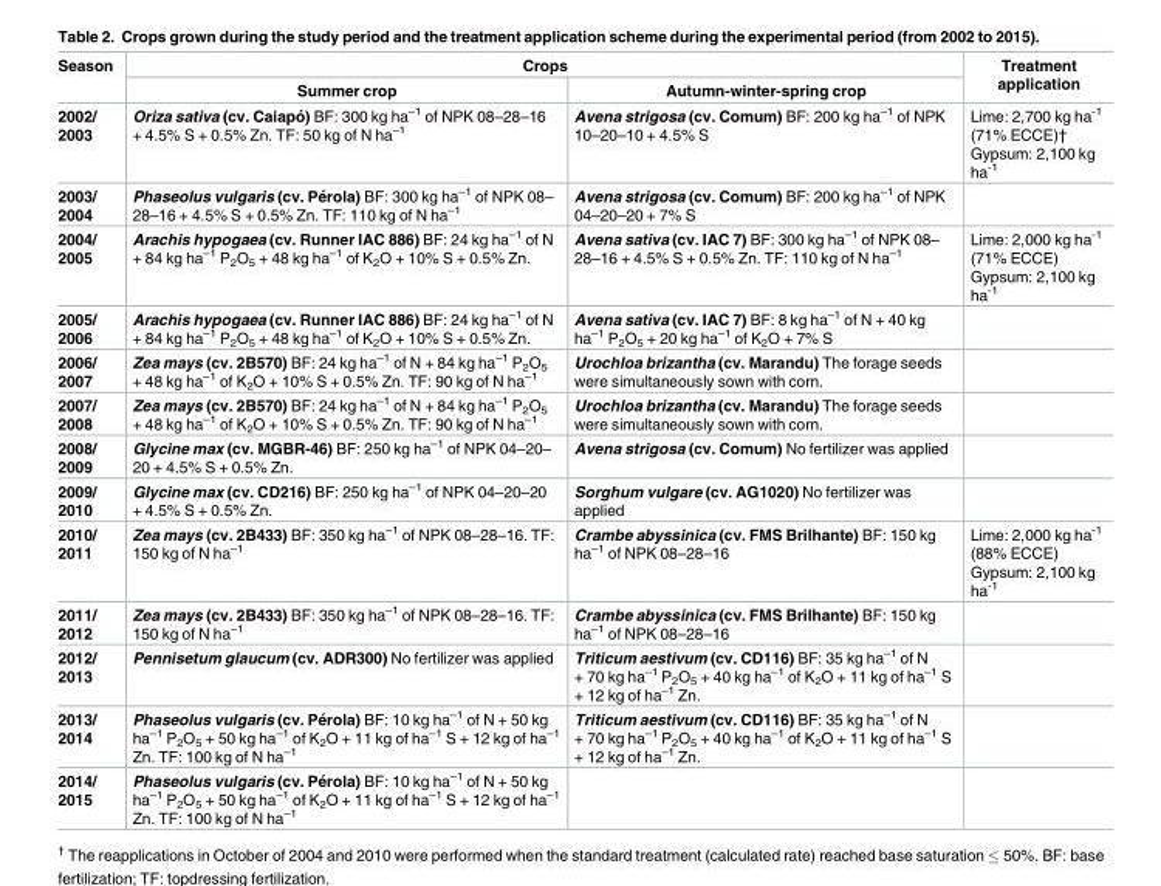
<table><thead><tr><td rowspan="2">Season</td><td colspan="2">Crops</td><td rowspan="2">Treatment application</td></tr><tr><td>Summer crop</td><td>Autumn-winter-spring crop</td></tr></thead><tbody><tr><td>2002/ 2003</td><td>Oriza sativa (cv. Caiapo´) BF: 300 kg ha–1 of NPK 08–28–16 + 4.5% S + 0.5% Zn. TF: 50 kg of N ha–1</td><td>Avena strigosa (cv. Comum) BF: 200 kg ha<sup>–1</sup> of NPK 10–20–10 + 4.5% S</td><td>Lime: 2,700 kg ha<sup>-1</sup> (71% ECCE)† Gypsum: 2,100 kg ha<sup>-1</sup></td></tr><tr><td>2003/ 2004</td><td>Phaseolus vulgaris (cv. Pe´rola) BF: 300 kg ha–1 of NPK 08– 28–16 + 4.5% S + 0.5% Zn. TF: 110 kg of N ha–1</td><td>Avena strigosa (cv. Comum) BF: 200 kg ha<sup>–1</sup> of NPK 04–20–20 + 7% S</td><td></td></tr><tr><td>2004/ 2005</td><td>Arachis hypogaea (cv. Runner IAC 886) BF: 24 kg ha<sup>–1</sup> of N + 84 kg ha<sup>–1</sup> P<sub>2</sub>O<sub>5</sub> + 48 kg ha<sup>–1</sup> of K<sub>2</sub>O + 10% S + 0.5% Zn.</td><td>Avena sativa (cv. IAC 7) BF: 300 kg ha<sup>–1</sup> of NPK 08– 28–16 + 4.5% S + 0.5% Zn. TF: 110 kg of N ha<sup>–1</sup></td><td>Lime: 2,000 kg ha<sup>-1</sup> (71% ECCE) Gypsum: 2,100 kg ha<sup>-1</sup></td></tr><tr><td>2005/ 2006</td><td>Arachis hypogaea (cv. Runner IAC 886) BF: 24 kg ha<sup>–1</sup> of N + 84 kg ha<sup>–1</sup> P<sub>2</sub>O<sub>5</sub> + 48 kg ha<sup>–1</sup> of K<sub>2</sub>O + 10% S + 0.5% Zn.</td><td>Avena sativa (cv. IAC 7) BF: 8 kg ha<sup>–1</sup> of N + 40 kg ha<sup>–1</sup> P<sub>2</sub>O<sub>5</sub> + 20 kg ha<sup>–1</sup> of K<sub>2</sub>O + 7% S</td><td></td></tr><tr><td>2006/ 2007</td><td>Zea mays (cv. 2B570) BF: 24 kg ha<sup>–1</sup> of N + 84 kg ha<sup>–1</sup> P<sub>2</sub>O<sub>5</sub> + 48 kg ha<sup>–1</sup> of K<sub>2</sub>O + 10% S + 0.5% Zn. TF: 90 kg of N ha<sup>–1</sup></td><td>Urochloa brizantha (cv. Marandu) The forage seeds were simultaneously sown with corn.</td><td></td></tr><tr><td>2007/ 2008</td><td>Zea mays (cv. 2B570) BF: 24 kg ha<sup>–1</sup> of N + 84 kg ha<sup>–1</sup> P<sub>2</sub>O<sub>5</sub> + 48 kg ha<sup>–1</sup> of K<sub>2</sub>O + 10% S + 0.5% Zn. TF: 90 kg of N ha<sup>–1</sup></td><td>Urochloa brizantha (cv. Marandu) The forage seeds were simultaneously sown with corn.</td><td></td></tr><tr><td>2008/ 2009</td><td>Glycine max (cv. MGBR-46) BF: 250 kg ha<sup>–1</sup> of NPK 04–20– 20 + 4.5% S + 0.5% Zn.</td><td>Avena strigosa (cv. Comum) No fertilizer was applied</td><td></td></tr><tr><td>2009/ 2010</td><td>Glycine max (cv. CD216) BF: 250 kg ha<sup>–1</sup> of NPK 04–20–20 + 4.5% S + 0.5% Zn.</td><td>Sorghum vulgare (cv. AG1020) No fertilizer was applied</td><td></td></tr><tr><td>2010/ 2011</td><td>Zea mays (cv. 2B433) BF: 350 kg ha<sup>–1</sup> of NPK 08–28–16. TF: 150 kg of N ha<sup>–1</sup></td><td>Crambe abyssinica (cv. FMS Brilhante) BF: 150 kg ha<sup>–1</sup> of NPK 08–28–16</td><td>Lime: 2,000 kg ha<sup>-1</sup> (88% ECCE) Gypsum: 2,100 kg ha<sup>-1</sup></td></tr><tr><td>2011/ 2012</td><td>Zea mays (cv. 2B433) BF: 350 kg ha<sup>–1</sup> of NPK 08–28–16. TF: 150 kg of N ha<sup>–1</sup></td><td>Crambe abyssinica (cv. FMS Brilhante) BF: 150 kg ha<sup>–1</sup> of NPK 08–28–16</td><td></td></tr><tr><td>2012/ 2013</td><td>Pennisetum glaucum (cv. ADR300) No fertilizer was applied</td><td>Triticum aestivum (cv. CD116) BF: 35 kg ha<sup>–1</sup> of N + 70 kg ha<sup>–1</sup> P<sub>2</sub>O<sub>5</sub> + 40 kg ha<sup>–1</sup> of K<sub>2</sub>O + 11 kg of ha<sup>–1</sup> S + 12 kg of ha<sup>–1</sup> Zn.</td><td></td></tr><tr><td>2013/ 2014</td><td>Phaseolus vulgaris (cv. Pe´rola) BF: 10 kg ha–1 of N + 50 kg ha–1 P2O5 + 50 kg ha–1 of K2O + 11 kg of ha–1 S + 12 kg of ha–1 Zn. TF: 100 kg of N ha–1</td><td>Triticum aestivum (cv. CD116) BF: 35 kg ha<sup>–1</sup> of N + 70 kg ha<sup>–1</sup> P<sub>2</sub>O<sub>5</sub> + 40 kg ha<sup>–1</sup> of K<sub>2</sub>O + 11 kg of ha<sup>–1</sup> S + 12 kg of ha<sup>–1</sup> Zn.</td><td></td></tr><tr><td>2014/ 2015</td><td>Phaseolus vulgaris (cv. Pe´rola) BF: 10 kg ha–1 of N + 50 kg ha–1 P2O5 + 50 kg ha–1 of K2O + 11 kg of ha–1 S + 12 kg of ha–1 Zn. TF: 100 kg of N ha–1</td><td></td><td></td></tr></tbody></table>